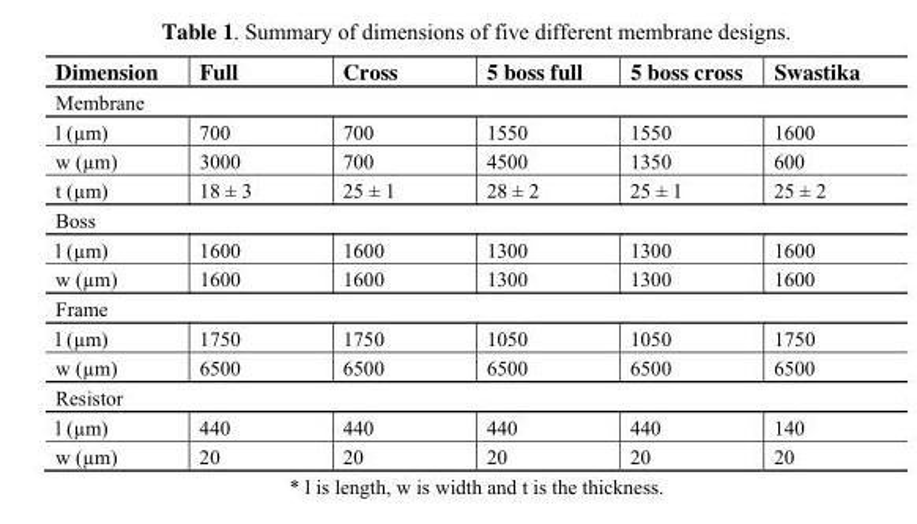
<table><thead><tr><td>Dimension</td><td>Full</td><td>Cross</td><td>5 boss full</td><td>5 boss cross</td><td>Swastika</td></tr></thead><tbody><tr><td colspan="6">Membrane</td></tr><tr><td>l (µm)</td><td>700</td><td>700</td><td>1550</td><td>1550</td><td>1600</td></tr><tr><td>w (µm)</td><td>3000</td><td>700</td><td>4500</td><td>1350</td><td>600</td></tr><tr><td>t (µm)</td><td>18 ± 3</td><td>25 ± 1</td><td>28 ± 2</td><td>25 ± 1</td><td>25 ± 2</td></tr><tr><td colspan="6">Boss</td></tr><tr><td>l (µm)</td><td>1600</td><td>1600</td><td>1300</td><td>1300</td><td>1600</td></tr><tr><td>w (µm)</td><td>1600</td><td>1600</td><td>1300</td><td>1300</td><td>1600</td></tr><tr><td colspan="6">Frame</td></tr><tr><td>l (µm)</td><td>1750</td><td>1750</td><td>1050</td><td>1050</td><td>1750</td></tr><tr><td>w (µm)</td><td>6500</td><td>6500</td><td>6500</td><td>6500</td><td>6500</td></tr><tr><td colspan="6">Resistor</td></tr><tr><td>l (µm)</td><td>440</td><td>440</td><td>440</td><td>440</td><td>140</td></tr><tr><td>w (µm)</td><td>20</td><td>20</td><td>20</td><td>20</td><td>20</td></tr></tbody></table>